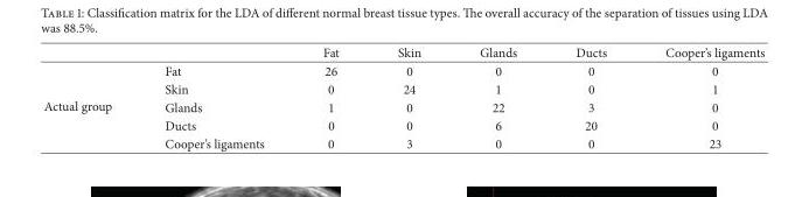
<table><thead><tr><td></td><td></td><td>Fat</td><td>Skin</td><td>Glands</td><td>Ducts</td><td>Cooper’s ligaments</td></tr></thead><tbody><tr><td rowspan="5">Actual group</td><td>Fat</td><td>26</td><td>0</td><td>0</td><td>0</td><td>0</td></tr><tr><td>Skin</td><td>0</td><td>24</td><td>1</td><td>0</td><td>1</td></tr><tr><td>Glands</td><td>1</td><td>0</td><td>22</td><td>3</td><td>0</td></tr><tr><td>Ducts</td><td>0</td><td>0</td><td>6</td><td>20</td><td>0</td></tr><tr><td>Cooper’s ligaments</td><td>0</td><td>3</td><td>0</td><td>0</td><td>23</td></tr></tbody></table>